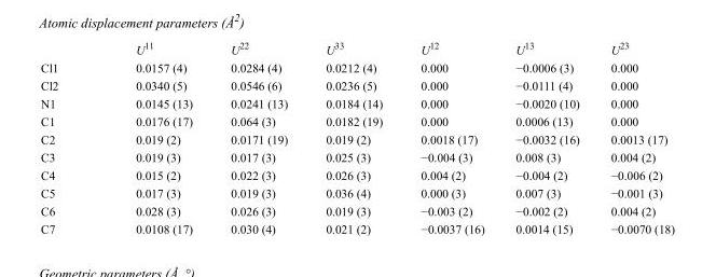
<table><thead><tr><td></td><td>U<sup>11</sup></td><td>U<sup>22</sup></td><td>U<sup>33</sup></td><td>U<sup>12</sup></td><td>U<sup>13</sup></td><td>U<sup>23</sup></td></tr></thead><tbody><tr><td>Cl1</td><td>0.0157 (4)</td><td>0.0284 (4)</td><td>0.0212 (4)</td><td>0.000</td><td>−0.0006 (3)</td><td>0.000</td></tr><tr><td>Cl2</td><td>0.0340 (5)</td><td>0.0546 (6)</td><td>0.0236 (5)</td><td>0.000</td><td>−0.0111 (4)</td><td>0.000</td></tr><tr><td>N1</td><td>0.0145 (13)</td><td>0.0241 (13)</td><td>0.0184 (14)</td><td>0.000</td><td>−0.0020 (10)</td><td>0.000</td></tr><tr><td>C1</td><td>0.0176 (17)</td><td>0.064 (3)</td><td>0.0182 (19)</td><td>0.000</td><td>0.0006 (13)</td><td>0.000</td></tr><tr><td>C2</td><td>0.019 (2)</td><td>0.0171 (19)</td><td>0.019 (2)</td><td>0.0018 (17)</td><td>−0.0032 (16)</td><td>0.0013 (17)</td></tr><tr><td>C3</td><td>0.019 (3)</td><td>0.017 (3)</td><td>0.025 (3)</td><td>−0.004 (3)</td><td>0.008 (3)</td><td>0.004 (2)</td></tr><tr><td>C4</td><td>0.015 (2)</td><td>0.022 (3)</td><td>0.026 (3)</td><td>0.004 (2)</td><td>−0.004 (2)</td><td>−0.006 (2)</td></tr><tr><td>C5</td><td>0.017 (3)</td><td>0.019 (3)</td><td>0.036 (4)</td><td>0.000 (3)</td><td>0.007 (3)</td><td>−0.001 (3)</td></tr><tr><td>C6</td><td>0.028 (3)</td><td>0.026 (3)</td><td>0.019 (3)</td><td>−0.003 (2)</td><td>−0.002 (2)</td><td>0.004 (2)</td></tr><tr><td>C7</td><td>0.0108 (17)</td><td>0.030 (4)</td><td>0.021 (2)</td><td>−0.0037 (16)</td><td>0.0014 (15)</td><td>−0.0070 (18)</td></tr></tbody></table>